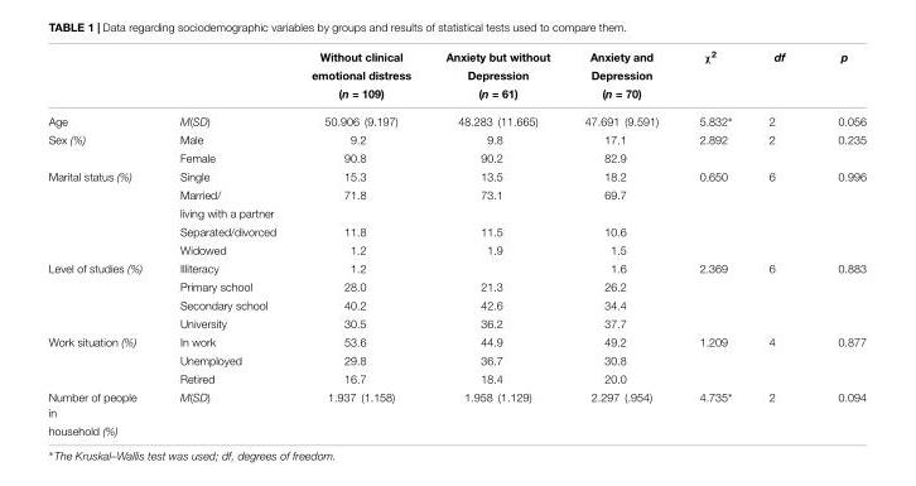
<table><thead><tr><td rowspan="3"></td><td rowspan="3"></td><td rowspan="3">Without clinical emotional distress (n = 109)</td><td rowspan="3">Anxiety but without Depression (n = 61)</td><td rowspan="3">Anxiety and Depression (n = 70)</td><td rowspan="3">χ<sup>2</sup></td><td rowspan="3">df</td><td rowspan="3">p</td></tr><tr></tr><tr></tr></thead><tbody><tr><td>Age</td><td>M(SD)</td><td>50.906 (9.197)</td><td>48.283 (11.665)</td><td>47.691 (9.591)</td><td>5.832∗</td><td>2</td><td>0.056</td></tr><tr><td rowspan="2">Sex (%)</td><td>Male</td><td>9.2</td><td>9.8</td><td>17.1</td><td>2.892</td><td>2</td><td>0.235</td></tr><tr><td>Female</td><td>90.8</td><td>90.2</td><td>82.9</td><td></td><td></td><td></td></tr><tr><td rowspan="5">Marital status (%)</td><td>Single</td><td>15.3</td><td>13.5</td><td>18.2</td><td>0.650</td><td>6</td><td>0.996</td></tr><tr><td>Married/</td><td>71.8</td><td>73.1</td><td>69.7</td><td></td><td></td><td></td></tr><tr><td>living with a partner</td><td></td><td></td><td></td><td></td><td></td><td></td></tr><tr><td>Separated/divorced</td><td>11.8</td><td>11.5</td><td>10.6</td><td></td><td></td><td></td></tr><tr><td>Widowed</td><td>1.2</td><td>1.9</td><td>1.5</td><td></td><td></td><td></td></tr><tr><td rowspan="4">Level of studies (%)</td><td>Illiteracy</td><td>1.2</td><td></td><td>1.6</td><td>2.369</td><td>6</td><td>0.883</td></tr><tr><td>Primary school</td><td>28.0</td><td>21.3</td><td>26.2</td><td></td><td></td><td></td></tr><tr><td>Secondary school</td><td>40.2</td><td>42.6</td><td>34.4</td><td></td><td></td><td></td></tr><tr><td>University</td><td>30.5</td><td>36.2</td><td>37.7</td><td></td><td></td><td></td></tr><tr><td rowspan="3">Work situation (%)</td><td>In work</td><td>53.6</td><td>44.9</td><td>49.2</td><td>1.209</td><td>4</td><td>0.877</td></tr><tr><td>Unemployed</td><td>29.8</td><td>36.7</td><td>30.8</td><td></td><td></td><td></td></tr><tr><td>Retired</td><td>16.7</td><td>18.4</td><td>20.0</td><td></td><td></td><td></td></tr><tr><td>Number of people in</td><td>M(SD)</td><td>1.937 (1.158)</td><td>1.958 (1.129)</td><td>2.297 (.954)</td><td>4.735∗</td><td>2</td><td>0.094</td></tr><tr><td>household (%)</td><td></td><td></td><td></td><td></td><td></td><td></td><td></td></tr></tbody></table>